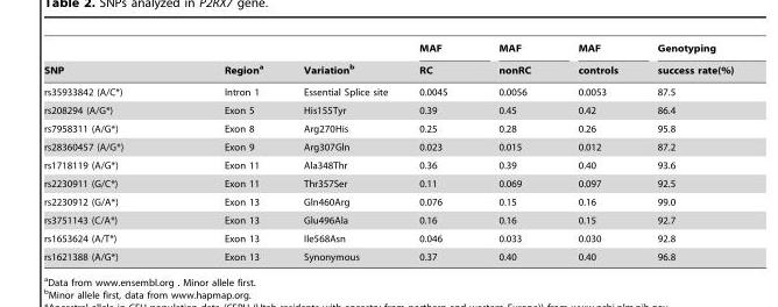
<table><thead><tr><td rowspan="2">SNP</td><td rowspan="2">Region<sup>a</sup></td><td rowspan="2">Variation<sup>b</sup></td><td rowspan="2">MAF RC</td><td rowspan="2">MAF nonRC</td><td rowspan="2">MAF controls</td><td rowspan="2">Genotyping success rate(%)</td></tr><tr></tr></thead><tbody><tr><td>rs35933842 (A/C*)</td><td>Intron 1</td><td>Essential Splice site</td><td>0.0045</td><td>0.0056</td><td>0.0053</td><td>87.5</td></tr><tr><td>rs208294 (A/G*)</td><td>Exon 5</td><td>His155Tyr</td><td>0.39</td><td>0.45</td><td>0.42</td><td>86.4</td></tr><tr><td>rs7958311 (A/G*)</td><td>Exon 8</td><td>Arg270His</td><td>0.25</td><td>0.28</td><td>0.26</td><td>95.8</td></tr><tr><td>rs28360457 (A/G*)</td><td>Exon 9</td><td>Arg307Gln</td><td>0.023</td><td>0.015</td><td>0.012</td><td>87.2</td></tr><tr><td>rs1718119 (A/G*)</td><td>Exon 11</td><td>Ala348Thr</td><td>0.36</td><td>0.39</td><td>0.40</td><td>93.6</td></tr><tr><td>rs2230911 (G/C*)</td><td>Exon 11</td><td>Thr357Ser</td><td>0.11</td><td>0.069</td><td>0.097</td><td>92.5</td></tr><tr><td>rs2230912 (G/A*)</td><td>Exon 13</td><td>Gln460Arg</td><td>0.076</td><td>0.15</td><td>0.16</td><td>99.0</td></tr><tr><td>rs3751143 (C/A*)</td><td>Exon 13</td><td>Glu496Ala</td><td>0.16</td><td>0.16</td><td>0.15</td><td>92.7</td></tr><tr><td>rs1653624 (A/T*)</td><td>Exon 13</td><td>Ile568Asn</td><td>0.046</td><td>0.033</td><td>0.030</td><td>92.8</td></tr><tr><td>rs1621388 (A/G*)</td><td>Exon 13</td><td>Synonymous</td><td>0.37</td><td>0.40</td><td>0.40</td><td>96.8</td></tr></tbody></table>